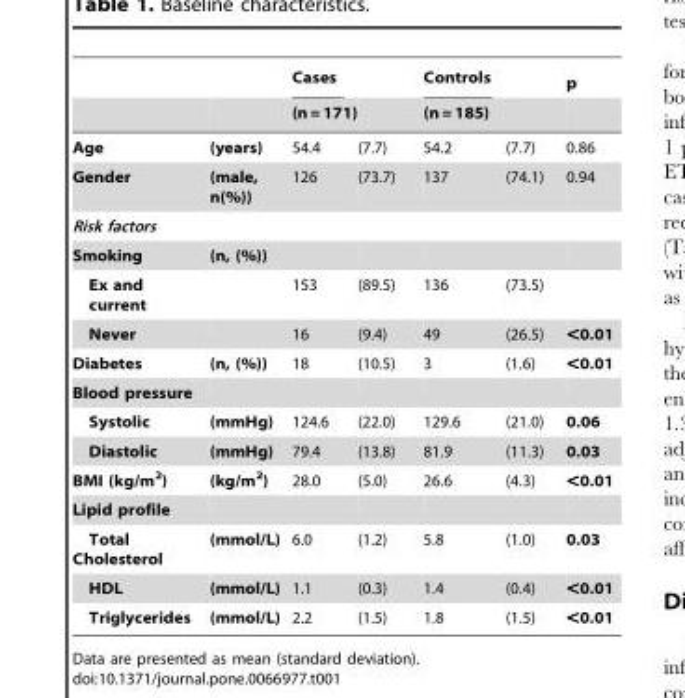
<table><thead><tr><td rowspan="2"></td><td rowspan="2"></td><td rowspan="2">Cases (n = 171)</td><td rowspan="2"></td><td rowspan="2">Controls (n = 185)</td><td rowspan="2"></td><td rowspan="2">p</td></tr><tr></tr></thead><tbody><tr><td>Age</td><td>(years)</td><td>54.4</td><td>(7.7)</td><td>54.2</td><td>(7.7)</td><td>0.86</td></tr><tr><td>Gender</td><td>(male, n(%))</td><td>126</td><td>(73.7)</td><td>137</td><td>(74.1)</td><td>0.94</td></tr><tr><td colspan="7">Risk factors</td></tr><tr><td>Smoking</td><td>(n, (%))</td><td></td><td></td><td></td><td></td><td></td></tr><tr><td>Ex and current</td><td></td><td>153</td><td>(89.5)</td><td>136</td><td>(73.5)</td><td></td></tr><tr><td>Never</td><td></td><td>16</td><td>(9.4)</td><td>49</td><td>(26.5)</td><td>&lt;0.01</td></tr><tr><td>Diabetes</td><td>(n, (%))</td><td>18</td><td>(10.5)</td><td>3</td><td>(1.6)</td><td>&lt;0.01</td></tr><tr><td colspan="7">Blood pressure</td></tr><tr><td>Systolic</td><td>(mmHg)</td><td>124.6</td><td>(22.0)</td><td>129.6</td><td>(21.0)</td><td>0.06</td></tr><tr><td>Diastolic</td><td>(mmHg)</td><td>79.4</td><td>(13.8)</td><td>81.9</td><td>(11.3)</td><td>0.03</td></tr><tr><td>BMI (kg/m<sup>2</sup>)</td><td>(kg/m<sup>2</sup>)</td><td>28.0</td><td>(5.0)</td><td>26.6</td><td>(4.3)</td><td>&lt;0.01</td></tr><tr><td colspan="7">Lipid profile</td></tr><tr><td>Total Cholesterol</td><td>(mmol/L)</td><td>6.0</td><td>(1.2)</td><td>5.8</td><td>(1.0)</td><td>0.03</td></tr><tr><td>HDL</td><td>(mmol/L)</td><td>1.1</td><td>(0.3)</td><td>1.4</td><td>(0.4)</td><td>&lt;0.01</td></tr><tr><td>Triglycerides</td><td>(mmol/L)</td><td>2.2</td><td>(1.5)</td><td>1.8</td><td>(1.5)</td><td>&lt;0.01</td></tr></tbody></table>